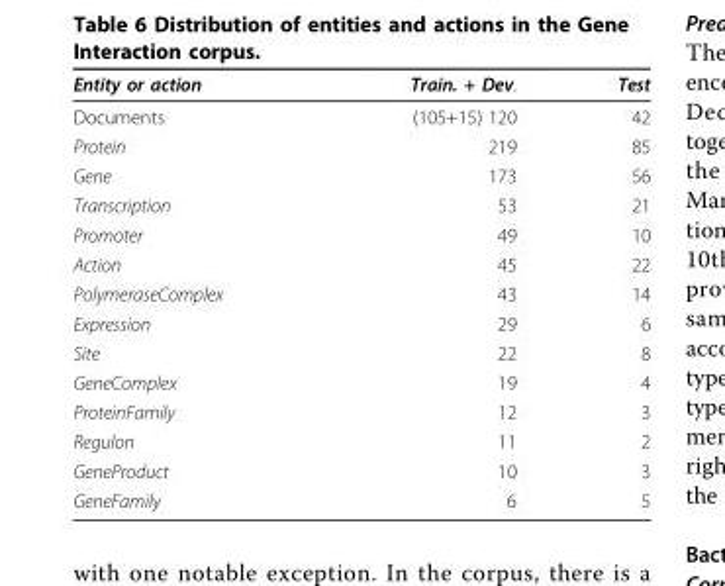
<table><thead><tr><td>Entity or action</td><td>Train. + Dev.</td><td>Test</td></tr></thead><tbody><tr><td>Documents</td><td>(105+15) 120</td><td>42</td></tr><tr><td>Protein</td><td>219</td><td>85</td></tr><tr><td>Gene</td><td>173</td><td>56</td></tr><tr><td>Transcription</td><td>53</td><td>21</td></tr><tr><td>Promoter</td><td>49</td><td>10</td></tr><tr><td>Action</td><td>45</td><td>22</td></tr><tr><td>PolymeraseComplex</td><td>43</td><td>14</td></tr><tr><td>Expression</td><td>29</td><td>6</td></tr><tr><td>Site</td><td>22</td><td>8</td></tr><tr><td>GeneComplex</td><td>19</td><td>4</td></tr><tr><td>ProteinFamily</td><td>12</td><td>3</td></tr><tr><td>Regulon</td><td>11</td><td>2</td></tr><tr><td>GeneProduct</td><td>10</td><td>3</td></tr><tr><td>GeneFamily</td><td>6</td><td>5</td></tr></tbody></table>